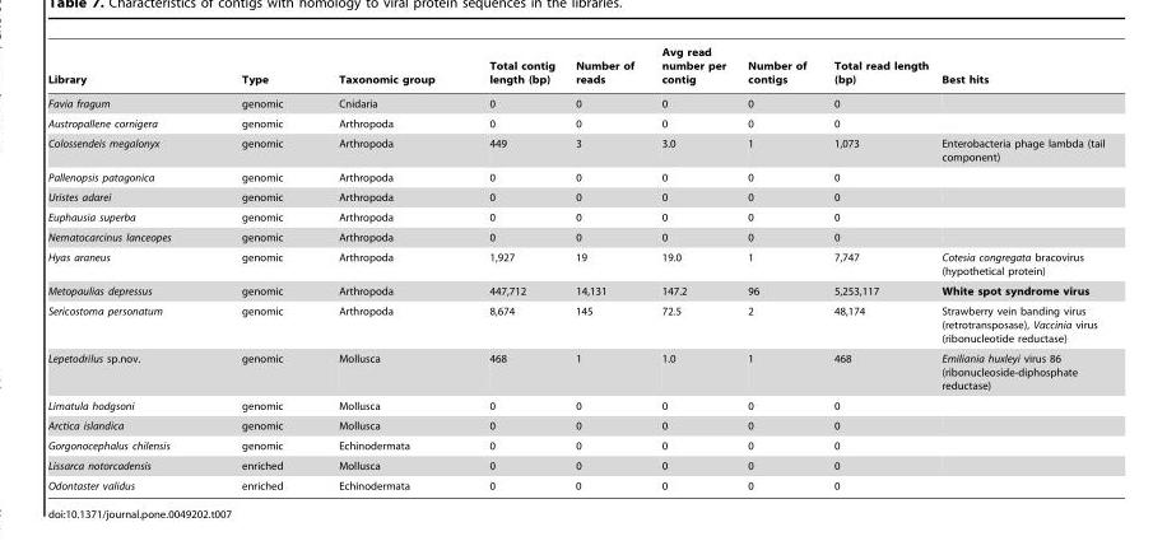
<table><thead><tr><td>Library</td><td>Type</td><td>Taxonomic group</td><td>Total contig length (bp)</td><td>Number of reads</td><td>Avg read number per contig</td><td>Number of contigs</td><td>Total read length (bp)</td><td>Best hits</td></tr></thead><tbody><tr><td>Favia fragum</td><td>genomic</td><td>Cnidaria</td><td>0</td><td>0</td><td>0</td><td>0</td><td>0</td><td></td></tr><tr><td>Austropallene cornigera</td><td>genomic</td><td>Arthropoda</td><td>0</td><td>0</td><td>0</td><td>0</td><td>0</td><td></td></tr><tr><td>Colossendeis megalonyx</td><td>genomic</td><td>Arthropoda</td><td>449</td><td>3</td><td>3.0</td><td>1</td><td>1,073</td><td>Enterobacteria phage lambda (tail component)</td></tr><tr><td>Pallenopsis patagonica</td><td>genomic</td><td>Arthropoda</td><td>0</td><td>0</td><td>0</td><td>0</td><td>0</td><td></td></tr><tr><td>Uristes adarei</td><td>genomic</td><td>Arthropoda</td><td>0</td><td>0</td><td>0</td><td>0</td><td>0</td><td></td></tr><tr><td>Euphausia superba</td><td>genomic</td><td>Arthropoda</td><td>0</td><td>0</td><td>0</td><td>0</td><td>0</td><td></td></tr><tr><td>Nematocarcinus lanceopes</td><td>genomic</td><td>Arthropoda</td><td>0</td><td>0</td><td>0</td><td>0</td><td>0</td><td></td></tr><tr><td>Hyas araneus</td><td>genomic</td><td>Arthropoda</td><td>1,927</td><td>19</td><td>19.0</td><td>1</td><td>7,747</td><td>Cotesia congregata bracovirus (hypothetical protein)</td></tr><tr><td>Metopaulias depressus</td><td>genomic</td><td>Arthropoda</td><td>447,712</td><td>14,131</td><td>147.2</td><td>96</td><td>5,253,117</td><td>White spot syndrome virus</td></tr><tr><td>Sericostoma personatum</td><td>genomic</td><td>Arthropoda</td><td>8,674</td><td>145</td><td>72.5</td><td>2</td><td>48,174</td><td>Strawberry vein banding virus (retrotransposase), Vaccinia virus (ribonucleotide reductase)</td></tr><tr><td>Lepetodrilus sp.nov.</td><td>genomic</td><td>Mollusca</td><td>468</td><td>1</td><td>1.0</td><td>1</td><td>468</td><td>Emiliania huxleyi virus 86 (ribonucleoside-diphosphate reductase)</td></tr><tr><td>Limatula hodgsoni</td><td>genomic</td><td>Mollusca</td><td>0</td><td>0</td><td>0</td><td>0</td><td>0</td><td></td></tr><tr><td>Arctica islandica</td><td>genomic</td><td>Mollusca</td><td>0</td><td>0</td><td>0</td><td>0</td><td>0</td><td></td></tr><tr><td>Gorgonocephalus chilensis</td><td>genomic</td><td>Echinodermata</td><td>0</td><td>0</td><td>0</td><td>0</td><td>0</td><td></td></tr><tr><td>Lissarca notorcadensis</td><td>enriched</td><td>Mollusca</td><td>0</td><td>0</td><td>0</td><td>0</td><td>0</td><td></td></tr><tr><td>Odontaster validus</td><td>enriched</td><td>Echinodermata</td><td>0</td><td>0</td><td>0</td><td>0</td><td>0</td><td></td></tr></tbody></table>